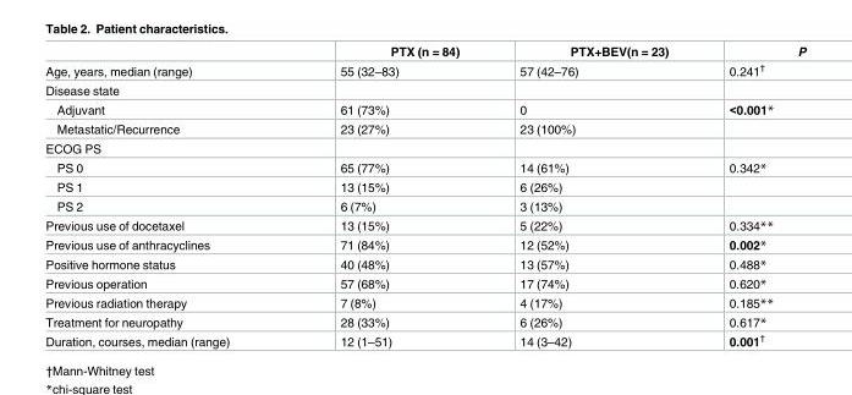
<table><thead><tr><td></td><td>PTX (n = 84)</td><td>PTX+BEV(n = 23)</td><td>P</td></tr></thead><tbody><tr><td>Age, years, median (range)</td><td>55 (32–83)</td><td>57 (42–76)</td><td>0.241<sup>†</sup></td></tr><tr><td colspan="4">Disease state</td></tr><tr><td>Adjuvant</td><td>61 (73%)</td><td>0</td><td>&lt;0.001*</td></tr><tr><td>Metastatic/Recurrence</td><td>23 (27%)</td><td>23 (100%)</td><td></td></tr><tr><td colspan="4">ECOG PS</td></tr><tr><td>PS 0</td><td>65 (77%)</td><td>14 (61%)</td><td>0.342*</td></tr><tr><td>PS 1</td><td>13 (15%)</td><td>6 (26%)</td><td></td></tr><tr><td>PS 2</td><td>6 (7%)</td><td>3 (13%)</td><td></td></tr><tr><td>Previous use of docetaxel</td><td>13 (15%)</td><td>5 (22%)</td><td>0.334**</td></tr><tr><td>Previous use of anthracyclines</td><td>71 (84%)</td><td>12 (52%)</td><td>0.002*</td></tr><tr><td>Positive hormone status</td><td>40 (48%)</td><td>13 (57%)</td><td>0.488*</td></tr><tr><td>Previous operation</td><td>57 (68%)</td><td>17 (74%)</td><td>0.620*</td></tr><tr><td>Previous radiation therapy</td><td>7 (8%)</td><td>4 (17%)</td><td>0.185**</td></tr><tr><td>Treatment for neuropathy</td><td>28 (33%)</td><td>6 (26%)</td><td>0.617*</td></tr><tr><td>Duration, courses, median (range)</td><td>12 (1–51)</td><td>14 (3–42)</td><td>0.001<sup>†</sup></td></tr></tbody></table>